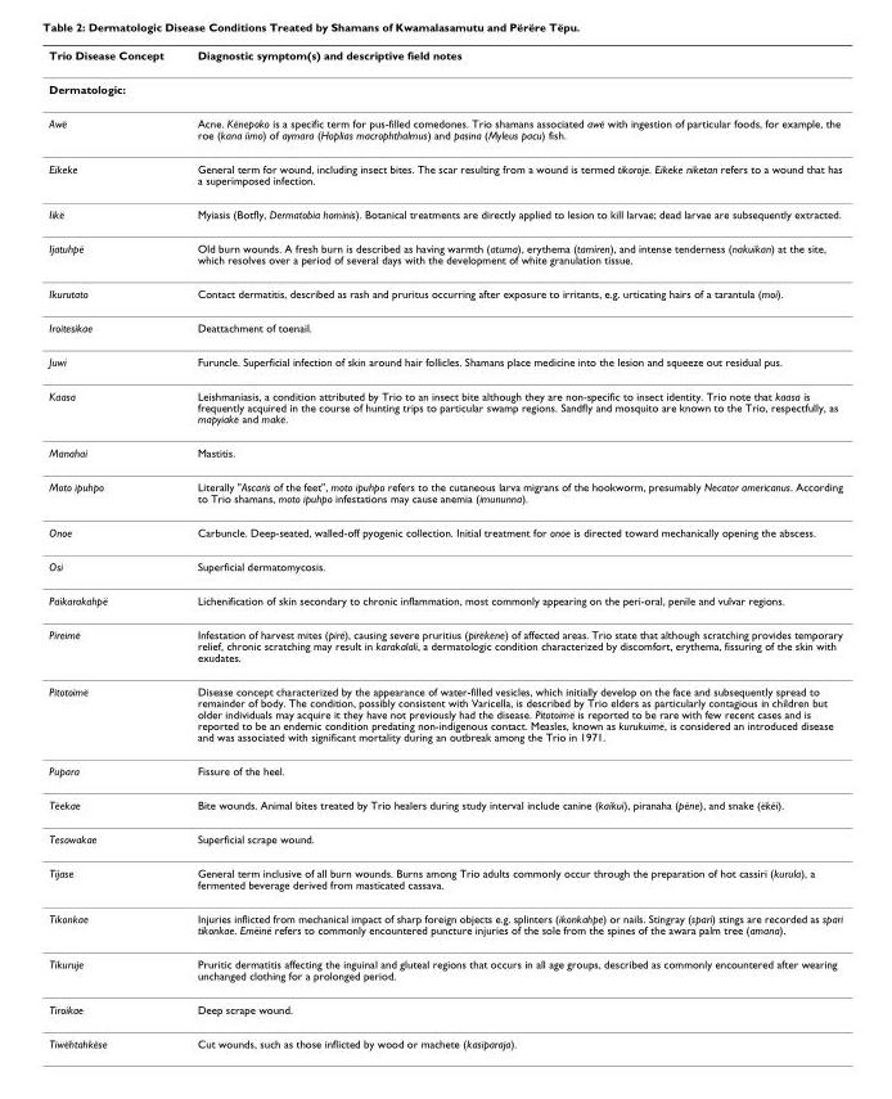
<table><thead><tr><td>Trio Disease Concept</td><td>Diagnostic symptom(s) and descriptive field notes</td></tr></thead><tbody><tr><td colspan="2">Dermatologic:</td></tr><tr><td>Awë</td><td>Acne. Kënepoko is a specific term for pus-filled comedones. Trio shamans associated awë with ingestion of particular foods, for example, the roe (kana iimo) of aymara (Hoplias macrophthalmus) and pasina (Myleus pacu) fish.</td></tr><tr><td>Eikeke</td><td>General term for wound, including insect bites. The scar resulting from a wound is termed tikoroje. Eikeke niketan refers to a wound that has a superimposed infection.</td></tr><tr><td>Iikë</td><td>Myiasis (Botfly, Dermatobia hominis). Botanical treatments are directly applied to lesion to kill larvae; dead larvae are subsequently extracted.</td></tr><tr><td>Ijatuhpë</td><td>Old burn wounds. A fresh burn is described as having warmth (atuma), erythema (tamiren), and intense tenderness (nakuikan) at the site, which resolves over a period of several days with the development of white granulation tissue.</td></tr><tr><td>Ikurutato</td><td>Contact dermatitis, described as rash and pruritus occurring after exposure to irritants, e.g. urticating hairs of a tarantula (moi).</td></tr><tr><td>Iroitesikae</td><td>Deattachment of toenail.</td></tr><tr><td>Juwi</td><td>Furuncle. Superficial infection of skin around hair follicles. Shamans place medicine into the lesion and squeeze out residual pus.</td></tr><tr><td>Kaasa</td><td>Leishmaniasis, a condition attributed by Trio to an insect bite although they are non-specific to insect identity. Trio note that kaasa is frequently acquired in the course of hunting trips to particular swamp regions. Sandfly and mosquito are known to the Trio, respectfully, as mapyiakë and makë.</td></tr><tr><td>Manahai</td><td>Mastitis.</td></tr><tr><td>Moto ipuhpo</td><td>Literally &quot;Ascaris of the feet&quot;, moto ipuhpo refers to the cutaneous larva migrans of the hookworm, presumably Necator americanus. According to Trio shamans, moto ipuhpo infestations may cause anemia (imununna).</td></tr><tr><td>Onoe</td><td>Carbuncle. Deep-seated, walled-off pyogenic collection. Initial treatment for onoe is directed toward mechanically opening the abscess.</td></tr><tr><td>Osi</td><td>Superficial dermatomycosis.</td></tr><tr><td>Paikarakahpë</td><td>Lichenification of skin secondary to chronic inflammation, most commonly appearing on the peri-oral, penile and vulvar regions.</td></tr><tr><td>Pireimë</td><td>Infestation of harvest mites (pirë), causing severe pruritius (pirëkëne) of affected areas. Trio state that although scratching provides temporary relief, chronic scratching may result in karakalali, a dermatologic condition characterized by discomfort, erythema, fissuring of the skin with exudates.</td></tr><tr><td>Pitotoimë</td><td>Disease concept characterized by the appearance of water-filled vesicles, which initially develop on the face and subsequently spread to remainder of body. The condition, possibly consistent with Varicella, is described by Trio elders as particularly contagious in children but older individuals may acquire it they have not previously had the disease. Pitotoimë is reported to be rare with few recent cases and is reported to be an endemic condition predating non-indigenous contact. Measles, known as kurukuimë, is considered an introduced disease and was associated with significant mortality during an outbreak among the Trio in 1971.</td></tr><tr><td>Pupara</td><td>Fissure of the heel.</td></tr><tr><td>Tëekae</td><td>Bite wounds. Animal bites treated by Trio healers during study interval include canine (kaikui), piranaha (pëne), and snake (ëkëi).</td></tr><tr><td>Tesowakae</td><td>Superficial scrape wound.</td></tr><tr><td>Tijase</td><td>General term inclusive of all burn wounds. Burns among Trio adults commonly occur through the preparation of hot cassiri (kurula), a fermented beverage derived from masticated cassava.</td></tr><tr><td>Tikonkae</td><td>Injuries inflicted from mechanical impact of sharp foreign objects e.g. splinters (ikonkahpe) or nails. Stingray (spari) stings are recorded as spari tikonkae. Emëinë refers to commonly encountered puncture injuries of the sole from the spines of the awara palm tree (amana).</td></tr><tr><td>Tikuruje</td><td>Pruritic dermatitis affecting the inguinal and gluteal regions that occurs in all age groups, described as commonly encountered after wearing unchanged clothing for a prolonged period.</td></tr><tr><td>Tiroikae</td><td>Deep scrape wound.</td></tr><tr><td>Tiwëhtahkëse</td><td>Cut wounds, such as those inflicted by wood or machete (kasiparaja).</td></tr></tbody></table>